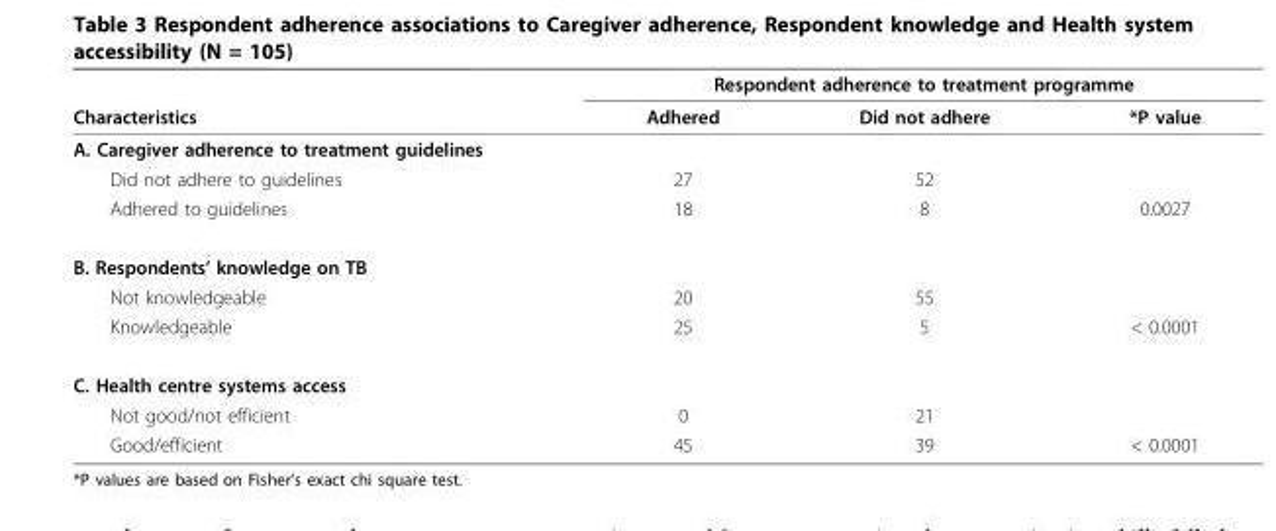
<table><thead><tr><td rowspan="2">Characteristics</td><td colspan="3">Respondent adherence to treatment programme</td></tr><tr><td>Adhered</td><td>Did not adhere</td><td>*P value</td></tr></thead><tbody><tr><td colspan="4">A. Caregiver adherence to treatment guidelines</td></tr><tr><td>Did not adhere to guidelines</td><td>27</td><td>52</td><td></td></tr><tr><td>Adhered to guidelines</td><td>18</td><td>8</td><td>0.0027</td></tr><tr><td colspan="4">B. Respondents’ knowledge on TB</td></tr><tr><td>Not knowledgeable</td><td>20</td><td>55</td><td></td></tr><tr><td>Knowledgeable</td><td>25</td><td>5</td><td>&lt; 0.0001</td></tr><tr><td colspan="4">C. Health centre systems access</td></tr><tr><td>Not good/not efficient</td><td>0</td><td>21</td><td></td></tr><tr><td>Good/efficient</td><td>45</td><td>39</td><td>&lt; 0.0001</td></tr></tbody></table>